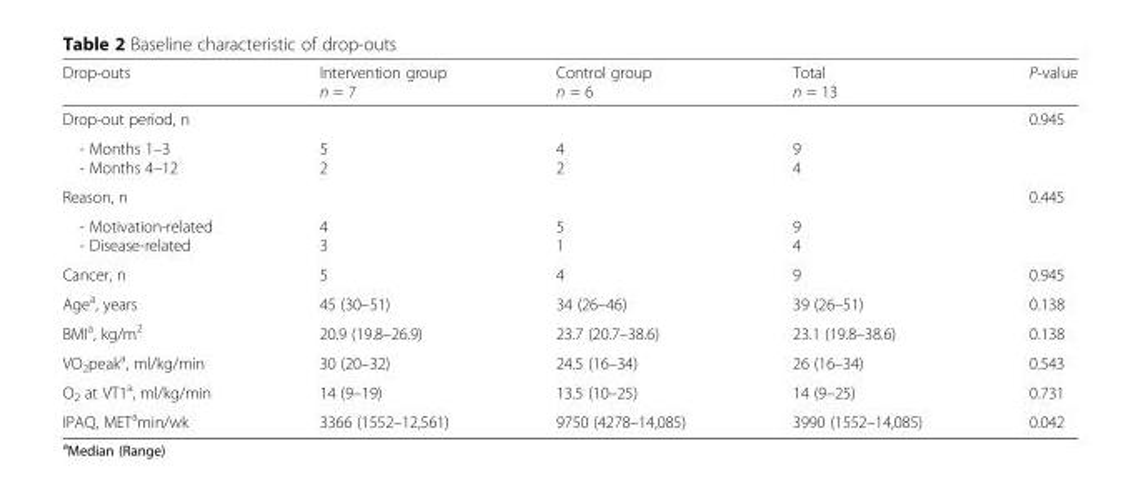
<table><thead><tr><td>Drop-outs</td><td>Intervention group n = 7</td><td>Control group n = 6</td><td>Total n = 13</td><td>P-value</td></tr></thead><tbody><tr><td colspan="4">Drop-out period, n</td><td rowspan="2">0.945</td></tr><tr><td>- Months 1–3 - Months 4–12</td><td>5 2</td><td>4 2</td><td>9 4</td></tr><tr><td colspan="4">Reason, n</td><td rowspan="2">0.445</td></tr><tr><td>- Motivation-related - Disease-related</td><td>4 3</td><td>5 1</td><td>9 4</td></tr><tr><td>Cancer, n</td><td>5</td><td>4</td><td>9</td><td>0.945</td></tr><tr><td>Age<sup>a</sup>, years</td><td>45 (30–51)</td><td>34 (26–46)</td><td>39 (26–51)</td><td>0.138</td></tr><tr><td>BMI<sup>a</sup>, kg/m<sup>2</sup></td><td>20.9 (19.8–26.9)</td><td>23.7 (20.7–38.6)</td><td>23.1 (19.8–38.6)</td><td>0.138</td></tr><tr><td>VO<sub>2</sub>peak<sup>a</sup>, ml/kg/min</td><td>30 (20–32)</td><td>24.5 (16–34)</td><td>26 (16–34)</td><td>0.543</td></tr><tr><td>O<sub>2</sub> at VT1<sup>a</sup>, ml/kg/min</td><td>14 (9–19)</td><td>13.5 (10–25)</td><td>14 (9–25)</td><td>0.731</td></tr><tr><td>IPAQ, MET<sup>a</sup>min/wk</td><td>3366 (1552–12,561)</td><td>9750 (4278–14,085)</td><td>3990 (1552–14,085)</td><td>0.042</td></tr></tbody></table>